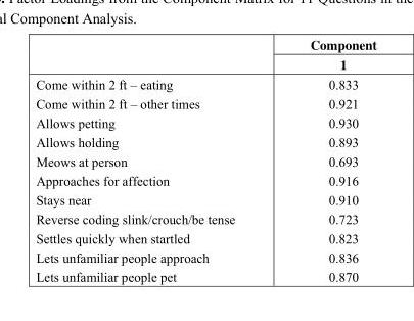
<table><thead><tr><td rowspan="2"></td><td rowspan="2">Component 1</td></tr><tr></tr></thead><tbody><tr><td>Come within 2 ft – eating</td><td>0.833</td></tr><tr><td>Come within 2 ft – other times</td><td>0.921</td></tr><tr><td>Allows petting</td><td>0.930</td></tr><tr><td>Allows holding</td><td>0.893</td></tr><tr><td>Meows at person</td><td>0.693</td></tr><tr><td>Approaches for affection</td><td>0.916</td></tr><tr><td>Stays near</td><td>0.910</td></tr><tr><td>Reverse coding slink/crouch/be tense</td><td>0.723</td></tr><tr><td>Settles quickly when startled</td><td>0.823</td></tr><tr><td>Lets unfamiliar people approach</td><td>0.836</td></tr><tr><td>Lets unfamiliar people pet</td><td>0.870</td></tr></tbody></table>